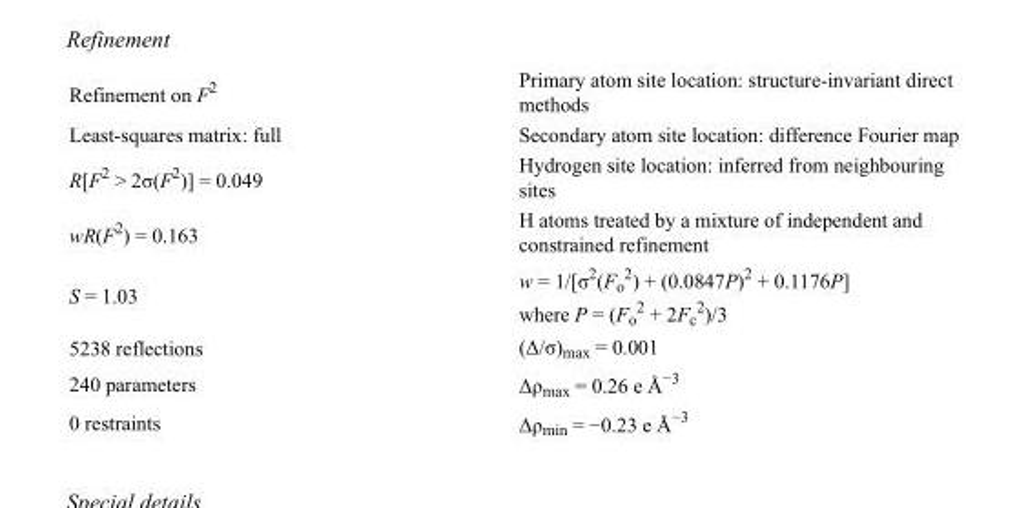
<table><tbody><tr><td>Refinement on F<sup>2</sup></td><td>Primary atom site location: structure-invariant direct methods</td></tr><tr><td>Least-squares matrix: full</td><td>Secondary atom site location: difference Fourier map</td></tr><tr><td>R[F<sup>2</sup> &gt; 2σ(F<sup>2</sup>)] = 0.049</td><td>Hydrogen site location: inferred from neighbouring sites</td></tr><tr><td>wR(F<sup>2</sup>) = 0.163</td><td>H atoms treated by a mixture of independent and constrained refinement</td></tr><tr><td>S = 1.03</td><td>w = 1/[σ<sup>2</sup>(F<sub>o</sub> <sup>2</sup>) + (0.0847P)<sup>2</sup> + 0.1176P] where P = (F<sub>o</sub> <sup>2</sup> + 2F<sub>c</sub> <sup>2</sup>)/3</td></tr><tr><td>5238 reflections</td><td>(Δ/σ)<sub>max</sub> = 0.001</td></tr><tr><td>240 parameters</td><td>Δρ<sub>max</sub> = 0.26 e Å<sup>−3</sup></td></tr><tr><td>0 restraints</td><td>Δρ<sub>min</sub> = −0.23 e Å<sup>−3</sup></td></tr></tbody></table>